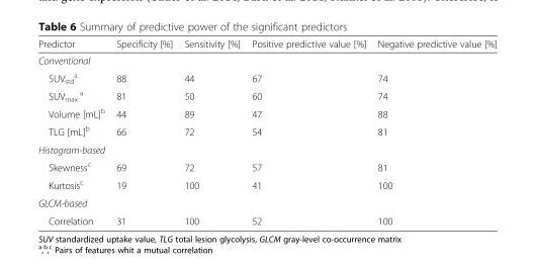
<table><thead><tr><td>Predictor</td><td>Specificity [%]</td><td>Sensitivity [%]</td><td>Positive predictive value [%]</td><td>Negative predictive value [%]</td></tr></thead><tbody><tr><td colspan="5">Conventional</td></tr><tr><td>SUV<sub>std</sub> <sup>a</sup></td><td>88</td><td>44</td><td>67</td><td>74</td></tr><tr><td>SUV<sub>max</sub> <sup>a</sup></td><td>81</td><td>50</td><td>60</td><td>74</td></tr><tr><td>Volume [mL]<sup>b</sup></td><td>44</td><td>89</td><td>47</td><td>88</td></tr><tr><td>TLG [mL]<sup>b</sup></td><td>66</td><td>72</td><td>54</td><td>81</td></tr><tr><td colspan="5">Histogram-based</td></tr><tr><td>Skewness<sup>c</sup></td><td>69</td><td>72</td><td>57</td><td>81</td></tr><tr><td>Kurtosis<sup>c</sup></td><td>19</td><td>100</td><td>41</td><td>100</td></tr><tr><td colspan="5">GLCM-based</td></tr><tr><td>Correlation</td><td>31</td><td>100</td><td>52</td><td>100</td></tr></tbody></table>